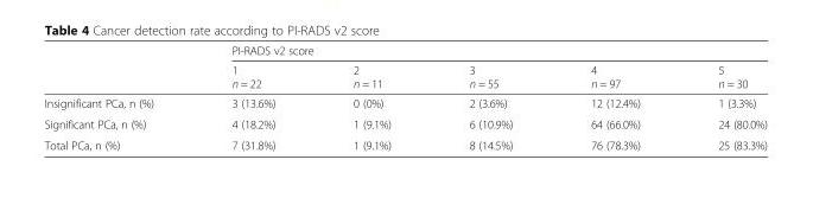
<table><thead><tr><td rowspan="2"></td><td colspan="5">PI-RADS v2 score</td></tr><tr><td>1 n = 22</td><td>2 n = 11</td><td>3 n = 55</td><td>4 n = 97</td><td>5 n = 30</td></tr></thead><tbody><tr><td>Insignificant PCa, n (%)</td><td>3 (13.6%)</td><td>0 (0%)</td><td>2 (3.6%)</td><td>12 (12.4%)</td><td>1 (3.3%)</td></tr><tr><td>Significant PCa, n (%)</td><td>4 (18.2%)</td><td>1 (9.1%)</td><td>6 (10.9%)</td><td>64 (66.0%)</td><td>24 (80.0%)</td></tr><tr><td>Total PCa, n (%)</td><td>7 (31.8%)</td><td>1 (9.1%)</td><td>8 (14.5%)</td><td>76 (78.3%)</td><td>25 (83.3%)</td></tr></tbody></table>